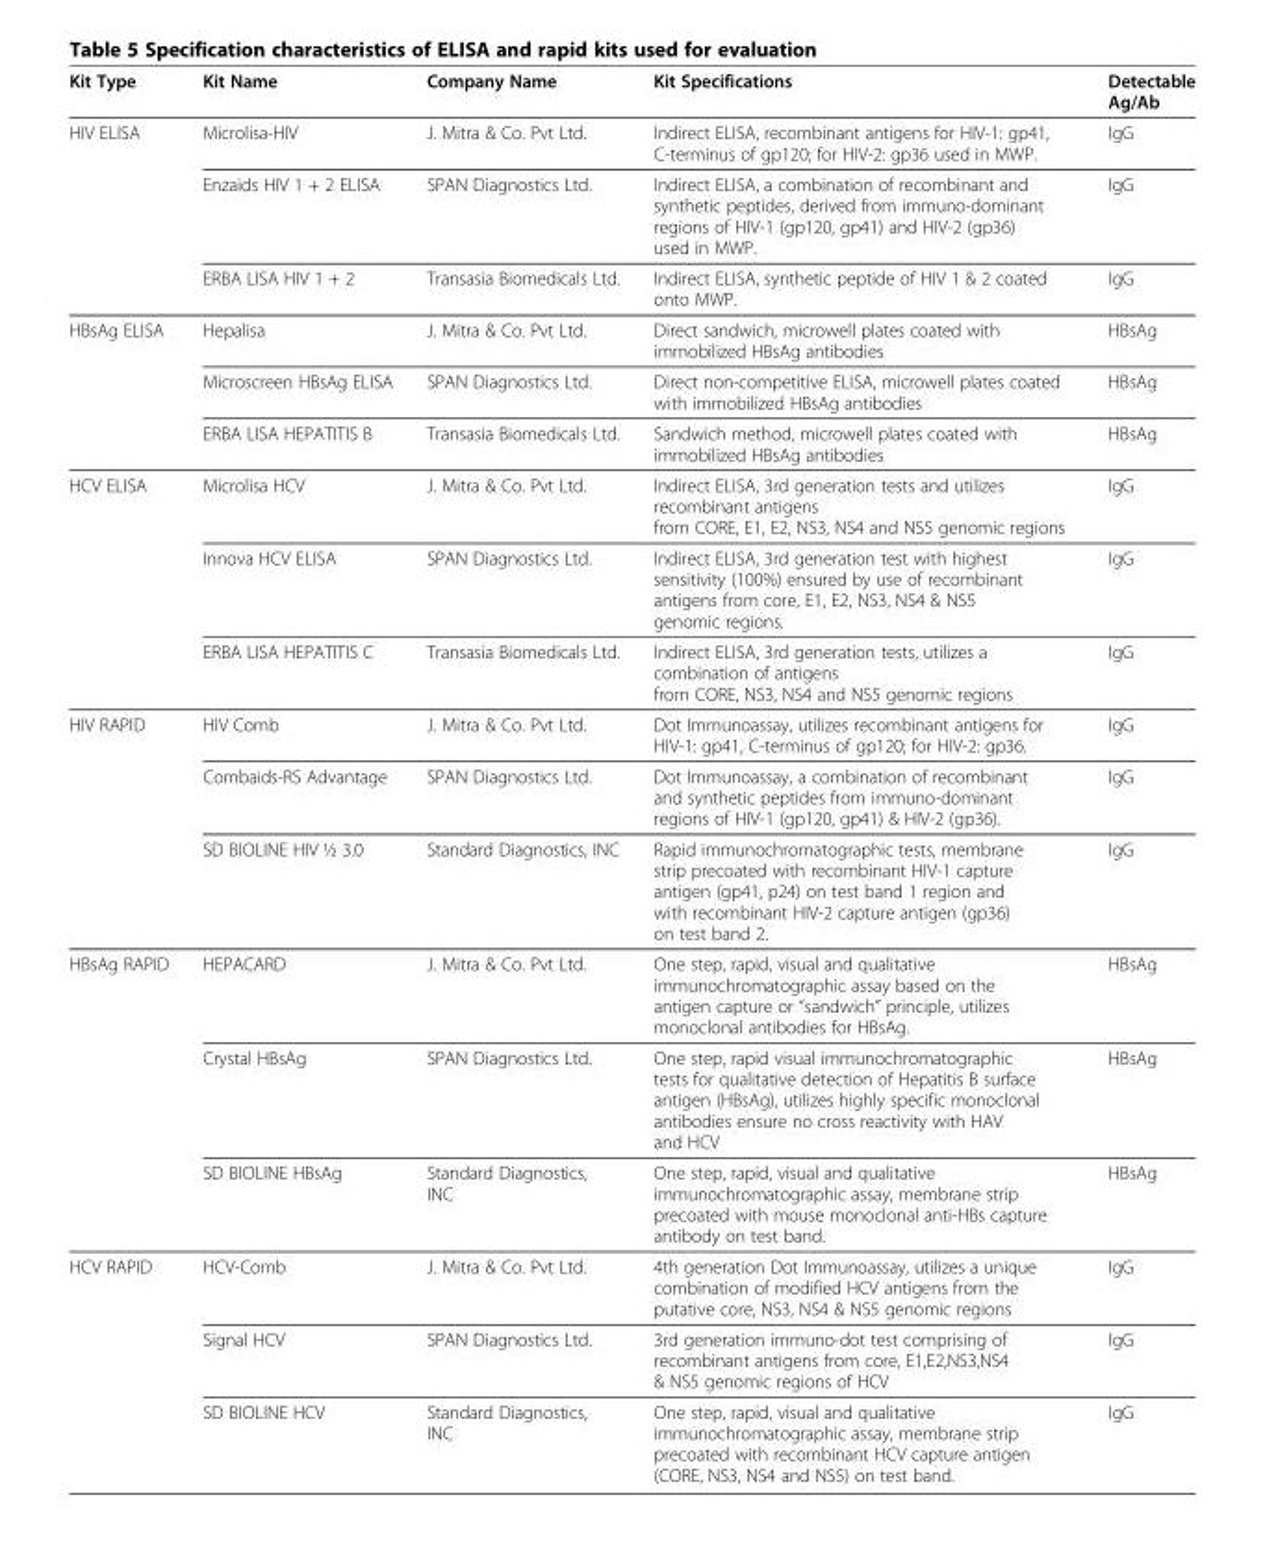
<table><thead><tr><td>Kit Type</td><td>Kit Name</td><td>Company Name</td><td>Kit Specifications</td><td>Detectable Ag/Ab</td></tr></thead><tbody><tr><td rowspan="3">HIV ELISA</td><td>Microlisa-HIV</td><td>J. Mitra &amp; Co. Pvt Ltd.</td><td>Indirect ELISA, recombinant antigens for HIV-1: gp41, C-terminus of gp120; for HIV-2: gp36 used in MWP.</td><td>IgG</td></tr><tr><td>Enzaids HIV 1 + 2 ELISA</td><td>SPAN Diagnostics Ltd.</td><td>Indirect ELISA, a combination of recombinant and synthetic peptides, derived from immuno-dominant regions of HIV-1 (gp120, gp41) and HIV-2 (gp36) used in MWP.</td><td>IgG</td></tr><tr><td>ERBA LISA HIV 1 + 2</td><td>Transasia Biomedicals Ltd.</td><td>Indirect ELISA, synthetic peptide of HIV 1 &amp; 2 coated onto MWP.</td><td>IgG</td></tr><tr><td rowspan="3">HBsAg ELISA</td><td>Hepalisa</td><td>J. Mitra &amp; Co. Pvt Ltd.</td><td>Direct sandwich, microwell plates coated with immobilized HBsAg antibodies</td><td>HBsAg</td></tr><tr><td>Microscreen HBsAg ELISA</td><td>SPAN Diagnostics Ltd.</td><td>Direct non-competitive ELISA, microwell plates coated with immobilized HBsAg antibodies</td><td>HBsAg</td></tr><tr><td>ERBA LISA HEPATITIS B</td><td>Transasia Biomedicals Ltd.</td><td>Sandwich method, microwell plates coated with immobilized HBsAg antibodies</td><td>HBsAg</td></tr><tr><td rowspan="3">HCV ELISA</td><td>Microlisa HCV</td><td>J. Mitra &amp; Co. Pvt Ltd.</td><td>Indirect ELISA, 3rd generation tests and utilizes recombinant antigens from CORE, E1, E2, NS3, NS4 and NS5 genomic regions</td><td>IgG</td></tr><tr><td>Innova HCV ELISA</td><td>SPAN Diagnostics Ltd.</td><td>Indirect ELISA, 3rd generation test with highest sensitivity (100%) ensured by use of recombinant antigens from core, E1, E2, NS3, NS4 &amp; NS5 genomic regions.</td><td>IgG</td></tr><tr><td>ERBA LISA HEPATITIS C</td><td>Transasia Biomedicals Ltd.</td><td>Indirect ELISA, 3rd generation tests, utilizes a combination of antigens from CORE, NS3, NS4 and NS5 genomic regions</td><td>IgG</td></tr><tr><td rowspan="3">HIV RAPID</td><td>HIV Comb</td><td>J. Mitra &amp; Co. Pvt Ltd.</td><td>Dot Immunoassay, utilizes recombinant antigens for HIV-1: gp41, C-terminus of gp120; for HIV-2: gp36.</td><td>IgG</td></tr><tr><td>Combaids-RS Advantage</td><td>SPAN Diagnostics Ltd.</td><td>Dot Immunoassay, a combination of recombinant and synthetic peptides from immuno-dominant regions of HIV-1 (gp120, gp41) &amp; HIV-2 (gp36).</td><td>IgG</td></tr><tr><td>SD BIOLINE HIV ½ 3.0</td><td>Standard Diagnostics, INC</td><td>Rapid immunochromatographic tests, membrane strip precoated with recombinant HIV-1 capture antigen (gp41, p24) on test band 1 region and with recombinant HIV-2 capture antigen (gp36) on test band 2.</td><td>IgG</td></tr><tr><td rowspan="3">HBsAg RAPID</td><td>HEPACARD</td><td>J. Mitra &amp; Co. Pvt Ltd.</td><td>One step, rapid, visual and qualitative immunochromatographic assay based on the antigen capture or “sandwich” principle, utilizes monoclonal antibodies for HBsAg.</td><td>HBsAg</td></tr><tr><td>Crystal HBsAg</td><td>SPAN Diagnostics Ltd.</td><td>One step, rapid visual immunochromatographic tests for qualitative detection of Hepatitis B surface antigen (HBsAg), utilizes highly specific monoclonal antibodies ensure no cross reactivity with HAV and HCV</td><td>HBsAg</td></tr><tr><td>SD BIOLINE HBsAg</td><td>Standard Diagnostics, INC</td><td>One step, rapid, visual and qualitative immunochromatographic assay, membrane strip precoated with mouse monoclonal anti-HBs capture antibody on test band.</td><td>HBsAg</td></tr><tr><td rowspan="3">HCV RAPID</td><td>HCV-Comb</td><td>J. Mitra &amp; Co. Pvt Ltd.</td><td>4th generation Dot Immunoassay, utilizes a unique combination of modified HCV antigens from the putative core, NS3, NS4 &amp; NS5 genomic regions</td><td>IgG</td></tr><tr><td>Signal HCV</td><td>SPAN Diagnostics Ltd.</td><td>3rd generation immuno-dot test comprising of recombinant antigens from core, E1,E2,NS3,NS4 &amp; NS5 genomic regions of HCV</td><td>IgG</td></tr><tr><td>SD BIOLINE HCV</td><td>Standard Diagnostics, INC</td><td>One step, rapid, visual and qualitative immunochromatographic assay, membrane strip precoated with recombinant HCV capture antigen (CORE, NS3, NS4 and NS5) on test band.</td><td>IgG</td></tr></tbody></table>